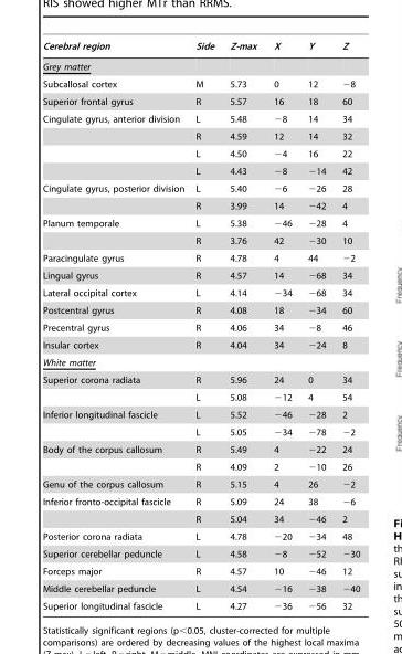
<table><thead><tr><td>Cerebral region</td><td>Side</td><td>Z-max</td><td>X</td><td>Y</td><td>Z</td></tr></thead><tbody><tr><td colspan="6">Grey matter</td></tr><tr><td>Subcallosal cortex</td><td>M</td><td>5.73</td><td>0</td><td>12</td><td>−8</td></tr><tr><td>Superior frontal gyrus</td><td>R</td><td>5.57</td><td>16</td><td>18</td><td>60</td></tr><tr><td rowspan="4">Cingulate gyrus, anterior division</td><td>L</td><td>5.48</td><td>−8</td><td>14</td><td>34</td></tr><tr><td>R</td><td>4.59</td><td>12</td><td>14</td><td>32</td></tr><tr><td>L</td><td>4.50</td><td>−4</td><td>16</td><td>22</td></tr><tr><td>L</td><td>4.43</td><td>−8</td><td>−14</td><td>42</td></tr><tr><td rowspan="2">Cingulate gyrus, posterior division</td><td>L</td><td>5.40</td><td>−6</td><td>−26</td><td>28</td></tr><tr><td>R</td><td>3.99</td><td>14</td><td>−42</td><td>4</td></tr><tr><td rowspan="2">Planum temporale</td><td>L</td><td>5.38</td><td>−46</td><td>−28</td><td>4</td></tr><tr><td>R</td><td>3.76</td><td>42</td><td>−30</td><td>10</td></tr><tr><td>Paracingulate gyrus</td><td>R</td><td>4.78</td><td>4</td><td>44</td><td>−2</td></tr><tr><td>Lingual gyrus</td><td>R</td><td>4.57</td><td>14</td><td>−68</td><td>34</td></tr><tr><td>Lateral occipital cortex</td><td>L</td><td>4.14</td><td>−34</td><td>−68</td><td>34</td></tr><tr><td>Postcentral gyrus</td><td>R</td><td>4.08</td><td>18</td><td>−34</td><td>60</td></tr><tr><td>Precentral gyrus</td><td>R</td><td>4.06</td><td>34</td><td>−8</td><td>46</td></tr><tr><td>Insular cortex</td><td>R</td><td>4.04</td><td>34</td><td>−24</td><td>8</td></tr><tr><td colspan="6">White matter</td></tr><tr><td rowspan="2">Superior corona radiata</td><td>R</td><td>5.96</td><td>24</td><td>0</td><td>34</td></tr><tr><td>L</td><td>5.08</td><td>−12</td><td>4</td><td>54</td></tr><tr><td rowspan="2">Inferior longitudinal fascicle</td><td>L</td><td>5.52</td><td>−46</td><td>−28</td><td>2</td></tr><tr><td>L</td><td>5.05</td><td>−34</td><td>−78</td><td>−2</td></tr><tr><td rowspan="2">Body of the corpus callosum</td><td>R</td><td>5.49</td><td>4</td><td>−22</td><td>24</td></tr><tr><td>R</td><td>4.09</td><td>2</td><td>−10</td><td>26</td></tr><tr><td>Genu of the corpus callosum</td><td>R</td><td>5.15</td><td>4</td><td>26</td><td>−2</td></tr><tr><td rowspan="2">Inferior fronto-occipital fascicle</td><td>R</td><td>5.09</td><td>24</td><td>38</td><td>−6</td></tr><tr><td>R</td><td>5.04</td><td>34</td><td>−46</td><td>2</td></tr><tr><td>Posterior corona radiata</td><td>L</td><td>4.78</td><td>−20</td><td>−34</td><td>48</td></tr><tr><td>Superior cerebellar peduncle</td><td>L</td><td>4.58</td><td>−8</td><td>−52</td><td>−30</td></tr><tr><td>Forceps major</td><td>R</td><td>4.57</td><td>10</td><td>−46</td><td>12</td></tr><tr><td>Middle cerebellar peduncle</td><td>L</td><td>4.54</td><td>−16</td><td>−38</td><td>−40</td></tr><tr><td>Superior longitudinal fascicle</td><td>L</td><td>4.27</td><td>−36</td><td>−56</td><td>32</td></tr></tbody></table>